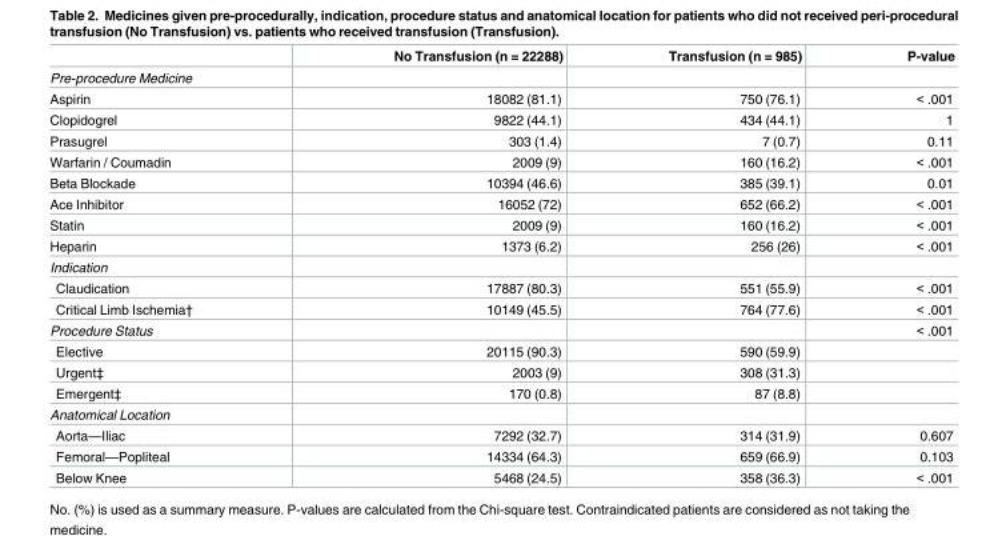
<table><thead><tr><td></td><td>No Transfusion (n = 22288)</td><td>Transfusion (n = 985)</td><td>P-value</td></tr></thead><tbody><tr><td colspan="4">Pre-procedure Medicine</td></tr><tr><td>Aspirin</td><td>18082 (81.1)</td><td>750 (76.1)</td><td>&lt; .001</td></tr><tr><td>Clopidogrel</td><td>9822 (44.1)</td><td>434 (44.1)</td><td>1</td></tr><tr><td>Prasugrel</td><td>303 (1.4)</td><td>7 (0.7)</td><td>0.11</td></tr><tr><td>Warfarin / Coumadin</td><td>2009 (9)</td><td>160 (16.2)</td><td>&lt; .001</td></tr><tr><td>Beta Blockade</td><td>10394 (46.6)</td><td>385 (39.1)</td><td>0.01</td></tr><tr><td>Ace Inhibitor</td><td>16052 (72)</td><td>652 (66.2)</td><td>&lt; .001</td></tr><tr><td>Statin</td><td>2009 (9)</td><td>160 (16.2)</td><td>&lt; .001</td></tr><tr><td>Heparin</td><td>1373 (6.2)</td><td>256 (26)</td><td>&lt; .001</td></tr><tr><td colspan="4">Indication</td></tr><tr><td>Claudication</td><td>17887 (80.3)</td><td>551 (55.9)</td><td>&lt; .001</td></tr><tr><td>Critical Limb Ischemia†</td><td>10149 (45.5)</td><td>764 (77.6)</td><td>&lt; .001</td></tr><tr><td>Procedure Status</td><td></td><td></td><td>&lt; .001</td></tr><tr><td>Elective</td><td>20115 (90.3)</td><td>590 (59.9)</td><td></td></tr><tr><td>Urgent‡</td><td>2003 (9)</td><td>308 (31.3)</td><td></td></tr><tr><td>Emergent‡</td><td>170 (0.8)</td><td>87 (8.8)</td><td></td></tr><tr><td colspan="4">Anatomical Location</td></tr><tr><td>Aorta—Iliac</td><td>7292 (32.7)</td><td>314 (31.9)</td><td>0.607</td></tr><tr><td>Femoral—Popliteal</td><td>14334 (64.3)</td><td>659 (66.9)</td><td>0.103</td></tr><tr><td>Below Knee</td><td>5468 (24.5)</td><td>358 (36.3)</td><td>&lt; .001</td></tr></tbody></table>